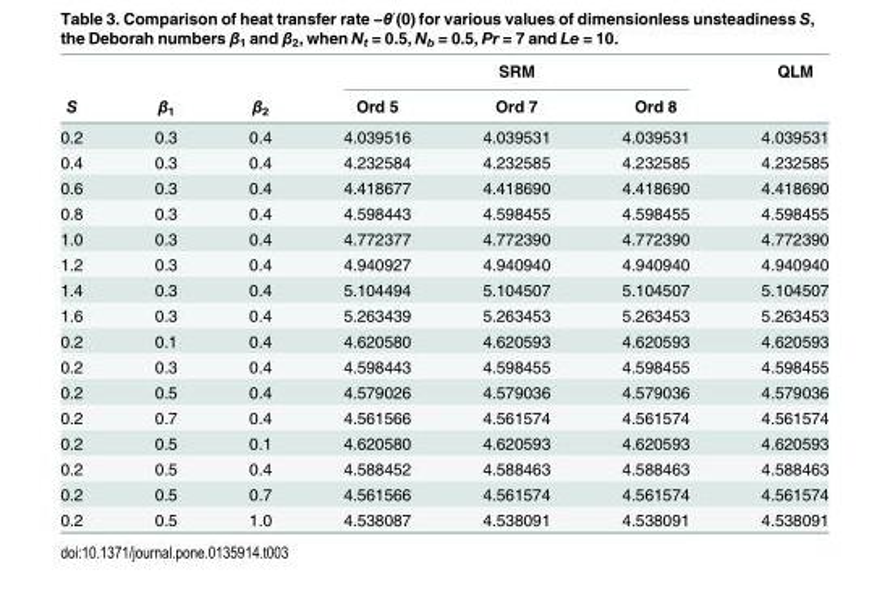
<table><thead><tr><td rowspan="2">S</td><td rowspan="2">β<sub>1</sub></td><td rowspan="2">β<sub>2</sub></td><td colspan="3">SRM</td><td rowspan="2">QLM</td></tr><tr><td>Ord 5</td><td>Ord 7</td><td>Ord 8</td></tr></thead><tbody><tr><td>0.2</td><td>0.3</td><td>0.4</td><td>4.039516</td><td>4.039531</td><td>4.039531</td><td>4.039531</td></tr><tr><td>0.4</td><td>0.3</td><td>0.4</td><td>4.232584</td><td>4.232585</td><td>4.232585</td><td>4.232585</td></tr><tr><td>0.6</td><td>0.3</td><td>0.4</td><td>4.418677</td><td>4.418690</td><td>4.418690</td><td>4.418690</td></tr><tr><td>0.8</td><td>0.3</td><td>0.4</td><td>4.598443</td><td>4.598455</td><td>4.598455</td><td>4.598455</td></tr><tr><td>1.0</td><td>0.3</td><td>0.4</td><td>4.772377</td><td>4.772390</td><td>4.772390</td><td>4.772390</td></tr><tr><td>1.2</td><td>0.3</td><td>0.4</td><td>4.940927</td><td>4.940940</td><td>4.940940</td><td>4.940940</td></tr><tr><td>1.4</td><td>0.3</td><td>0.4</td><td>5.104494</td><td>5.104507</td><td>5.104507</td><td>5.104507</td></tr><tr><td>1.6</td><td>0.3</td><td>0.4</td><td>5.263439</td><td>5.263453</td><td>5.263453</td><td>5.263453</td></tr><tr><td>0.2</td><td>0.1</td><td>0.4</td><td>4.620580</td><td>4.620593</td><td>4.620593</td><td>4.620593</td></tr><tr><td>0.2</td><td>0.3</td><td>0.4</td><td>4.598443</td><td>4.598455</td><td>4.598455</td><td>4.598455</td></tr><tr><td>0.2</td><td>0.5</td><td>0.4</td><td>4.579026</td><td>4.579036</td><td>4.579036</td><td>4.579036</td></tr><tr><td>0.2</td><td>0.7</td><td>0.4</td><td>4.561566</td><td>4.561574</td><td>4.561574</td><td>4.561574</td></tr><tr><td>0.2</td><td>0.5</td><td>0.1</td><td>4.620580</td><td>4.620593</td><td>4.620593</td><td>4.620593</td></tr><tr><td>0.2</td><td>0.5</td><td>0.4</td><td>4.588452</td><td>4.588463</td><td>4.588463</td><td>4.588463</td></tr><tr><td>0.2</td><td>0.5</td><td>0.7</td><td>4.561566</td><td>4.561574</td><td>4.561574</td><td>4.561574</td></tr><tr><td>0.2</td><td>0.5</td><td>1.0</td><td>4.538087</td><td>4.538091</td><td>4.538091</td><td>4.538091</td></tr></tbody></table>